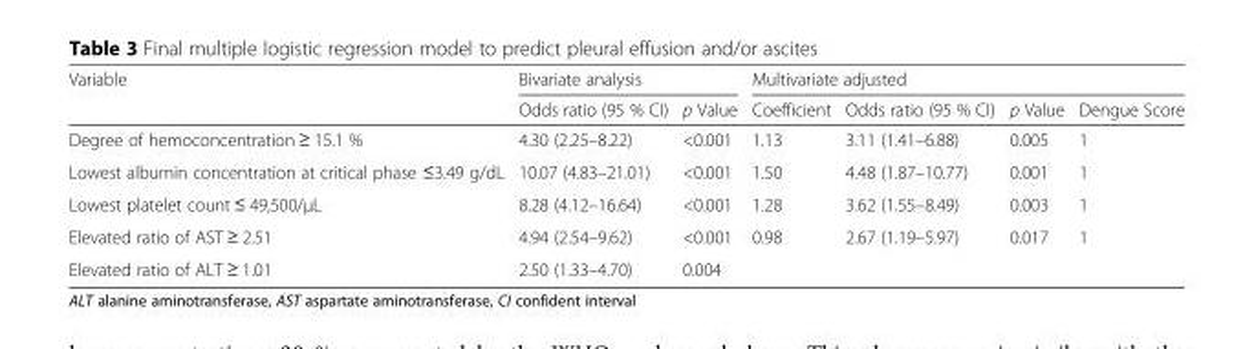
<table><thead><tr><td rowspan="2">Variable</td><td colspan="2">Bivariate analysis</td><td colspan="4">Multivariate adjusted</td></tr><tr><td>Odds ratio (95 % CI)</td><td>p Value</td><td>Coefficient</td><td>Odds ratio (95 % CI)</td><td>p Value</td><td>Dengue Score</td></tr></thead><tbody><tr><td>Degree of hemoconcentration ≥ 15.1 %</td><td>4.30 (2.25–8.22)</td><td>&lt;0.001</td><td>1.13</td><td>3.11 (1.41–6.88)</td><td>0.005</td><td>1</td></tr><tr><td>Lowest albumin concentration at critical phase ≤3.49 g/dL</td><td>10.07 (4.83–21.01)</td><td>&lt;0.001</td><td>1.50</td><td>4.48 (1.87–10.77)</td><td>0.001</td><td>1</td></tr><tr><td>Lowest platelet count ≤ 49,500/μL</td><td>8.28 (4.12–16.64)</td><td>&lt;0.001</td><td>1.28</td><td>3.62 (1.55–8.49)</td><td>0.003</td><td>1</td></tr><tr><td>Elevated ratio of AST ≥ 2.51</td><td>4.94 (2.54–9.62)</td><td>&lt;0.001</td><td>0.98</td><td>2.67 (1.19–5.97)</td><td>0.017</td><td>1</td></tr><tr><td>Elevated ratio of ALT ≥ 1.01</td><td>2.50 (1.33–4.70)</td><td>0.004</td><td></td><td></td><td></td><td></td></tr></tbody></table>